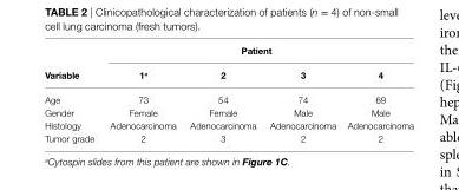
<table><thead><tr><td rowspan="2">Variable</td><td colspan="4">Patient</td></tr><tr><td>1<sup>a</sup></td><td>2</td><td>3</td><td>4</td></tr></thead><tbody><tr><td>Age</td><td>73</td><td>54</td><td>74</td><td>69</td></tr><tr><td>Gender</td><td>Female</td><td>Female</td><td>Male</td><td>Male</td></tr><tr><td>Histology</td><td>Adenocarcinoma</td><td>Adenocarcinoma</td><td>Adenocarcinoma</td><td>Adenocarcinoma</td></tr><tr><td>Tumor grade</td><td>2</td><td>3</td><td>2</td><td>2</td></tr></tbody></table>